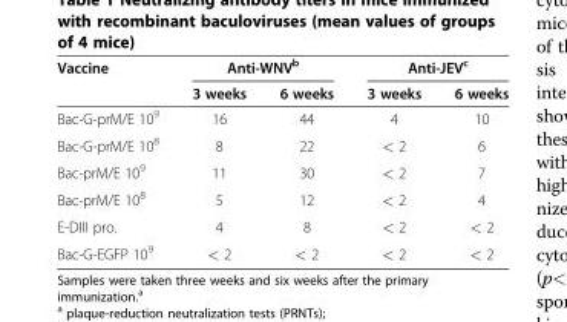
<table><thead><tr><td rowspan="2">Vaccine</td><td colspan="2">Anti-WNV<sup>b</sup></td><td colspan="2">Anti-JEV<sup>c</sup></td></tr><tr><td>3 weeks</td><td>6 weeks</td><td>3 weeks</td><td>6 weeks</td></tr></thead><tbody><tr><td>Bac-G-prM/E 10<sup>9</sup></td><td>16</td><td>44</td><td>4</td><td>10</td></tr><tr><td>Bac-G-prM/E 10<sup>8</sup></td><td>8</td><td>22</td><td>&lt; 2</td><td>6</td></tr><tr><td>Bac-prM/E 10<sup>9</sup></td><td>11</td><td>30</td><td>&lt; 2</td><td>7</td></tr><tr><td>Bac-prM/E 10<sup>8</sup></td><td>5</td><td>12</td><td>&lt; 2</td><td>4</td></tr><tr><td>E-DIII pro.</td><td>4</td><td>8</td><td>&lt; 2</td><td>&lt; 2</td></tr><tr><td>Bac-G-EGFP 10<sup>9</sup></td><td>&lt; 2</td><td>&lt; 2</td><td>&lt; 2</td><td>&lt; 2</td></tr></tbody></table>